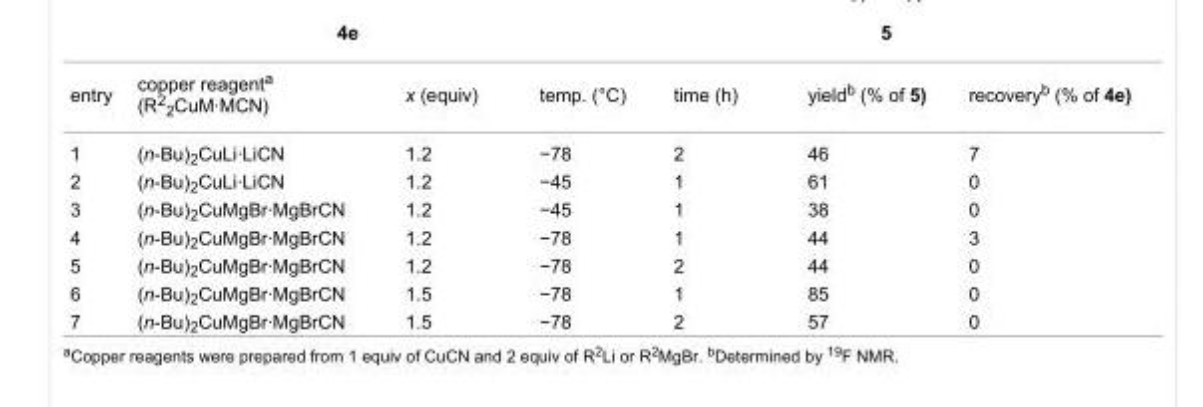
<table><tbody><tr><td>entry</td><td>copper reagent<sup>a</sup> (R<sup>2</sup><sub>2</sub>CuM·MCN)</td><td>x (equiv)</td><td>temp. (°C)</td><td>time (h)</td><td>yield<sup>b</sup> (% of 5)</td><td>recovery<sup>b</sup> (% of 4e)</td></tr><tr><td>1</td><td>(n-Bu)<sub>2</sub>CuLi·LiCN</td><td>1.2</td><td>−78</td><td>2</td><td>46</td><td>7</td></tr><tr><td>2</td><td>(n-Bu)<sub>2</sub>CuLi·LiCN</td><td>1.2</td><td>−45</td><td>1</td><td>61</td><td>0</td></tr><tr><td>3</td><td>(n-Bu)<sub>2</sub>CuMgBr·MgBrCN</td><td>1.2</td><td>−45</td><td>1</td><td>38</td><td>0</td></tr><tr><td>4</td><td>(n-Bu)<sub>2</sub>CuMgBr·MgBrCN</td><td>1.2</td><td>−78</td><td>1</td><td>44</td><td>3</td></tr><tr><td>5</td><td>(n-Bu)<sub>2</sub>CuMgBr·MgBrCN</td><td>1.2</td><td>−78</td><td>2</td><td>44</td><td>0</td></tr><tr><td>6</td><td>(n-Bu)<sub>2</sub>CuMgBr·MgBrCN</td><td>1.5</td><td>−78</td><td>1</td><td>85</td><td>0</td></tr><tr><td>7</td><td>(n-Bu)<sub>2</sub>CuMgBr·MgBrCN</td><td>1.5</td><td>−78</td><td>2</td><td>57</td><td>0</td></tr></tbody></table>